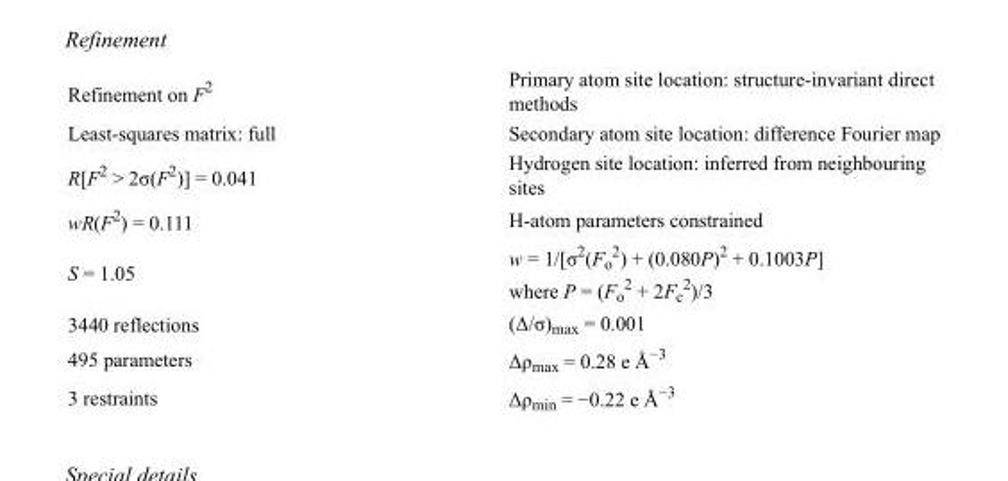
<table><tbody><tr><td>Refinement on F<sup>2</sup></td><td>Primary atom site location: structure-invariant direct methods</td></tr><tr><td>Least-squares matrix: full</td><td>Secondary atom site location: difference Fourier map</td></tr><tr><td>R[F<sup>2</sup> &gt; 2σ(F<sup>2</sup>)] = 0.041</td><td>Hydrogen site location: inferred from neighbouring sites</td></tr><tr><td>wR(F<sup>2</sup>) = 0.111</td><td>H-atom parameters constrained</td></tr><tr><td>S = 1.05</td><td>w = 1/[σ<sup>2</sup>(F<sub>o</sub> <sup>2</sup>) + (0.080P)<sup>2</sup> + 0.1003P] where P = (F<sub>o</sub> <sup>2</sup> + 2F<sub>c</sub> <sup>2</sup>)/3</td></tr><tr><td>3440 reflections</td><td>(Δ/σ)<sub>max</sub> = 0.001</td></tr><tr><td>495 parameters</td><td>Δρ<sub>max</sub> = 0.28 e Å<sup>−3</sup></td></tr><tr><td>3 restraints</td><td>Δρ<sub>min</sub> = −0.22 e Å<sup>−3</sup></td></tr></tbody></table>